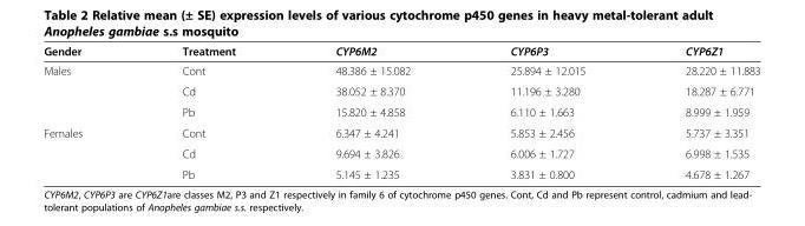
<table><thead><tr><td>Gender</td><td>Treatment</td><td>CYP6M2</td><td>CYP6P3</td><td>CYP6Z1</td></tr></thead><tbody><tr><td rowspan="3">Males</td><td>Cont</td><td>48.386 ± 15.082</td><td>25.894 ± 12.015</td><td>28.220 ± 11.883</td></tr><tr><td>Cd</td><td>38.052 ± 8.370</td><td>11.196 ± 3.280</td><td>18.287 ± 6.771</td></tr><tr><td>Pb</td><td>15.820 ± 4.858</td><td>6.110 ± 1.663</td><td>8.999 ± 1.959</td></tr><tr><td rowspan="3">Females</td><td>Cont</td><td>6.347 ± 4.241</td><td>5.853 ± 2.456</td><td>5.737 ± 3.351</td></tr><tr><td>Cd</td><td>9.694 ± 3.826</td><td>6.006 ± 1.727</td><td>6.998 ± 1.535</td></tr><tr><td>Pb</td><td>5.145 ± 1.235</td><td>3.831 ± 0.800</td><td>4.678 ± 1.267</td></tr></tbody></table>